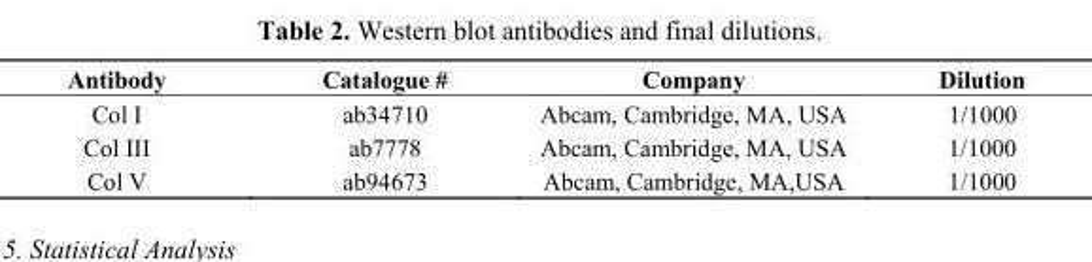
<table><thead><tr><td>Antibody</td><td>Catalogue #</td><td>Company</td><td>Dilution</td></tr></thead><tbody><tr><td>Col I</td><td>ab34710</td><td>Abcam, Cambridge, MA, USA</td><td>1/1000</td></tr><tr><td>Col III</td><td>ab7778</td><td>Abcam, Cambridge, MA, USA</td><td>1/1000</td></tr><tr><td>Col V</td><td>ab94673</td><td>Abcam, Cambridge, MA,USA</td><td>1/1000</td></tr></tbody></table>